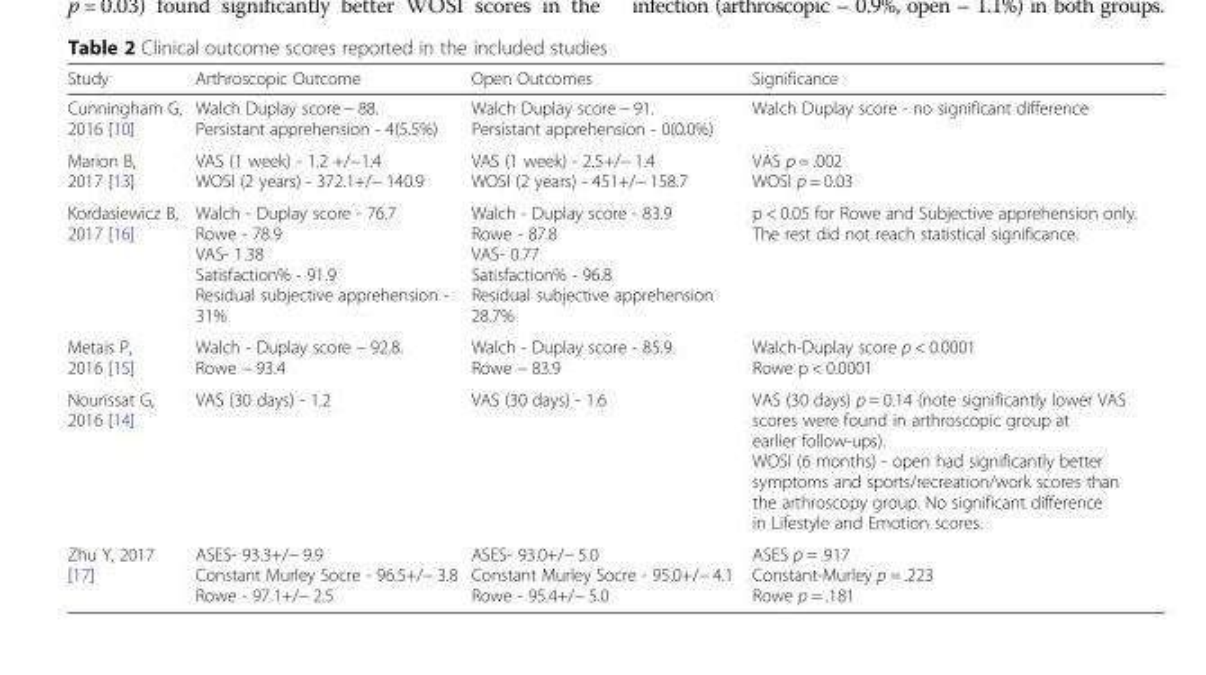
<table><thead><tr><td>Study</td><td>Arthroscopic Outcome</td><td>Open Outcomes</td><td>Significance</td></tr></thead><tbody><tr><td>Cunningham G, 2016 [10]</td><td>Walch Duplay score − 88. Persistant apprehension - 4(5.5%)</td><td>Walch Duplay score − 91. Persistant apprehension - 0(0.0%)</td><td>Walch Duplay score - no significant difference</td></tr><tr><td>Marion B, 2017 [13]</td><td>VAS (1 week) - 1.2 +/−1.4 WOSI (2 years) - 372.1+/− 140.9</td><td>VAS (1 week) - 2.5+/− 1.4 WOSI (2 years) - 451+/− 158.7</td><td>VAS p = .002 WOSI p = 0.03</td></tr><tr><td>Kordasiewicz B, 2017 [16]</td><td>Walch - Duplay score - 76.7 Rowe - 78.9 VAS- 1.38 Satisfaction% - 91.9 Residual subjective apprehension - 31%</td><td>Walch - Duplay score - 83.9 Rowe - 87.8 VAS- 0.77 Satisfaction% - 96.8 Residual subjective apprehension 28.7%</td><td>p &lt; 0.05 for Rowe and Subjective apprehension only. The rest did not reach statistical significance.</td></tr><tr><td>Metais P, 2016 [15]</td><td>Walch - Duplay score – 92.8. Rowe − 93.4</td><td>Walch - Duplay score - 85.9. Rowe − 83.9</td><td>Walch-Duplay score p &lt; 0.0001 Rowe p &lt; 0.0001</td></tr><tr><td>Nourissat G, 2016 [14]</td><td>VAS (30 days) - 1.2</td><td>VAS (30 days) - 1.6</td><td>VAS (30 days) p = 0.14 (note significantly lower VAS scores were found in arthroscopic group at earlier follow-ups). WOSI (6 months) - open had significantly better symptoms and sports/recreation/work scores than the arthroscopy group. No significant difference in Lifestyle and Emotion scores.</td></tr><tr><td>Zhu Y, 2017 [17]</td><td>ASES- 93.3+/− 9.9 Constant Murley Socre - 96.5+/− 3.8 Rowe - 97.1+/− 2.5</td><td>ASES- 93.0+/− 5.0 Constant Murley Socre - 95.0+/− 4.1 Rowe - 95.4+/− 5.0</td><td>ASES p = .917 Constant-Murley p = .223 Rowe p = .181</td></tr></tbody></table>